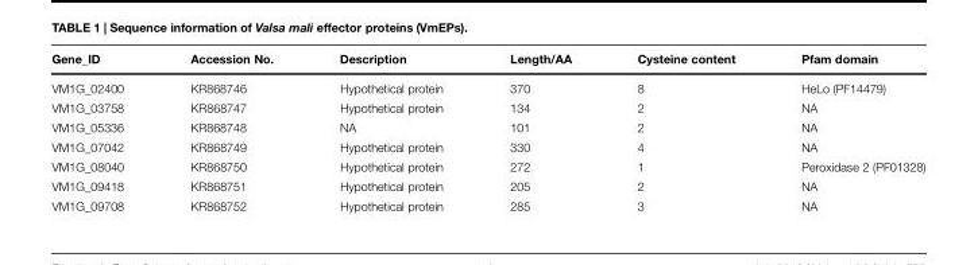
<table><thead><tr><td>Gene_ID</td><td>Accession No.</td><td>Description</td><td>Length/AA</td><td>Cysteine content</td><td>Pfam domain</td></tr></thead><tbody><tr><td>VM1G_02400</td><td>KR868746</td><td>Hypothetical protein</td><td>370</td><td>8</td><td>HeLo (PF14479)</td></tr><tr><td>VM1G_03758</td><td>KR868747</td><td>Hypothetical protein</td><td>134</td><td>2</td><td>NA</td></tr><tr><td>VM1G_05336</td><td>KR868748</td><td>NA</td><td>101</td><td>2</td><td>NA</td></tr><tr><td>VM1G_07042</td><td>KR868749</td><td>Hypothetical protein</td><td>330</td><td>4</td><td>NA</td></tr><tr><td>VM1G_08040</td><td>KR868750</td><td>Hypothetical protein</td><td>272</td><td>1</td><td>Peroxidase 2 (PF01328)</td></tr><tr><td>VM1G_09418</td><td>KR868751</td><td>Hypothetical protein</td><td>205</td><td>2</td><td>NA</td></tr><tr><td>VM1G_09708</td><td>KR868752</td><td>Hypothetical protein</td><td>285</td><td>3</td><td>NA</td></tr></tbody></table>